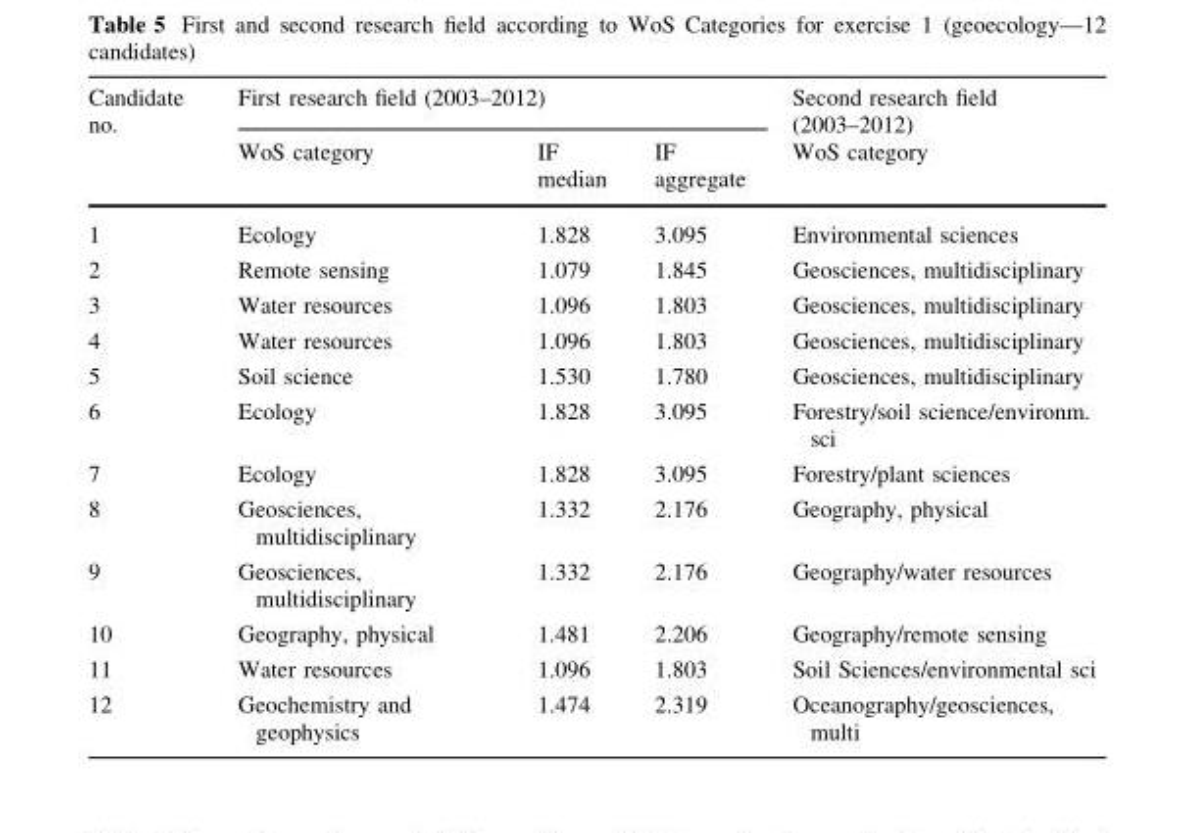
<table><thead><tr><td rowspan="2">Candidate no.</td><td colspan="3">First research field (2003–2012)</td><td rowspan="2">Second research field (2003–2012) WoS category</td></tr><tr><td>WoS category</td><td>IF median</td><td>IF aggregate</td></tr></thead><tbody><tr><td>1</td><td>Ecology</td><td>1.828</td><td>3.095</td><td>Environmental sciences</td></tr><tr><td>2</td><td>Remote sensing</td><td>1.079</td><td>1.845</td><td>Geosciences, multidisciplinary</td></tr><tr><td>3</td><td>Water resources</td><td>1.096</td><td>1.803</td><td>Geosciences, multidisciplinary</td></tr><tr><td>4</td><td>Water resources</td><td>1.096</td><td>1.803</td><td>Geosciences, multidisciplinary</td></tr><tr><td>5</td><td>Soil science</td><td>1.530</td><td>1.780</td><td>Geosciences, multidisciplinary</td></tr><tr><td>6</td><td>Ecology</td><td>1.828</td><td>3.095</td><td>Forestry/soil science/environm. sci</td></tr><tr><td>7</td><td>Ecology</td><td>1.828</td><td>3.095</td><td>Forestry/plant sciences</td></tr><tr><td>8</td><td>Geosciences, multidisciplinary</td><td>1.332</td><td>2.176</td><td>Geography, physical</td></tr><tr><td>9</td><td>Geosciences, multidisciplinary</td><td>1.332</td><td>2.176</td><td>Geography/water resources</td></tr><tr><td>10</td><td>Geography, physical</td><td>1.481</td><td>2.206</td><td>Geography/remote sensing</td></tr><tr><td>11</td><td>Water resources</td><td>1.096</td><td>1.803</td><td>Soil Sciences/environmental sci</td></tr><tr><td>12</td><td>Geochemistry and geophysics</td><td>1.474</td><td>2.319</td><td>Oceanography/geosciences, multi</td></tr></tbody></table>